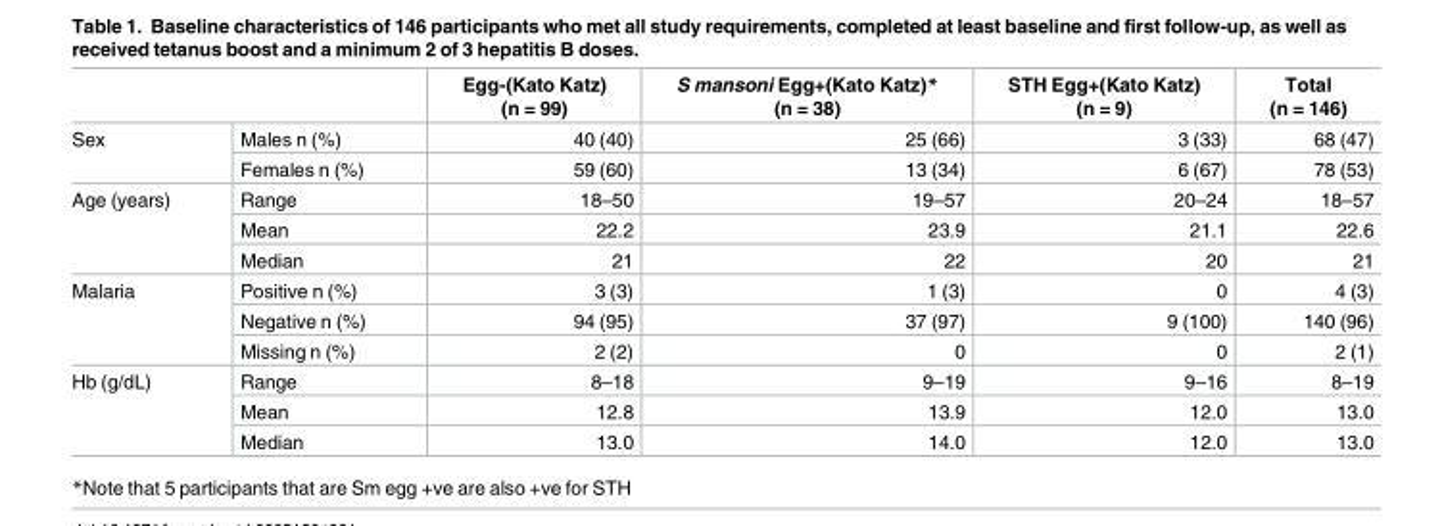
<table><thead><tr><td></td><td></td><td>Egg-(Kato Katz) (n = 99)</td><td>S mansoni Egg+(Kato Katz)* (n = 38)</td><td>STH Egg+(Kato Katz) (n = 9)</td><td>Total (n = 146)</td></tr></thead><tbody><tr><td rowspan="2">Sex</td><td>Males n (%)</td><td>40 (40)</td><td>25 (66)</td><td>3 (33)</td><td>68 (47)</td></tr><tr><td>Females n (%)</td><td>59 (60)</td><td>13 (34)</td><td>6 (67)</td><td>78 (53)</td></tr><tr><td rowspan="3">Age (years)</td><td>Range</td><td>18–50</td><td>19–57</td><td>20–24</td><td>18–57</td></tr><tr><td>Mean</td><td>22.2</td><td>23.9</td><td>21.1</td><td>22.6</td></tr><tr><td>Median</td><td>21</td><td>22</td><td>20</td><td>21</td></tr><tr><td rowspan="3">Malaria</td><td>Positive n (%)</td><td>3 (3)</td><td>1 (3)</td><td>0</td><td>4 (3)</td></tr><tr><td>Negative n (%)</td><td>94 (95)</td><td>37 (97)</td><td>9 (100)</td><td>140 (96)</td></tr><tr><td>Missing n (%)</td><td>2 (2)</td><td>0</td><td>0</td><td>2 (1)</td></tr><tr><td rowspan="3">Hb (g/dL)</td><td>Range</td><td>8–18</td><td>9–19</td><td>9–16</td><td>8–19</td></tr><tr><td>Mean</td><td>12.8</td><td>13.9</td><td>12.0</td><td>13.0</td></tr><tr><td>Median</td><td>13.0</td><td>14.0</td><td>12.0</td><td>13.0</td></tr></tbody></table>